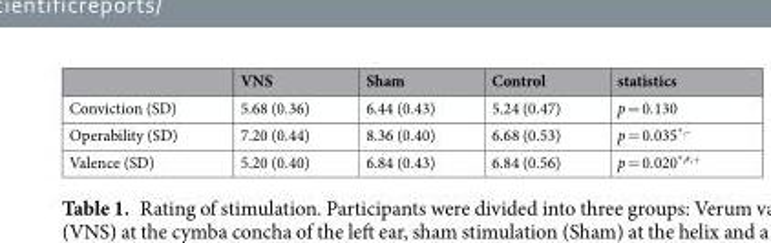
<table><thead><tr><td></td><td>VNS</td><td>Sham</td><td>Control</td><td>statistics</td></tr></thead><tbody><tr><td>Conviction (SD)</td><td>5.68 (0.36)</td><td>6.44 (0.43)</td><td>5.24 (0.47)</td><td>p = 0.130</td></tr><tr><td>Operability (SD)</td><td>7.20 (0.44)</td><td>8.36 (0.40)</td><td>6.68 (0.53)</td><td>p = 0.035<sup>*,~</sup></td></tr><tr><td>Valence (SD)</td><td>5.20 (0.40)</td><td>6.84 (0.43)</td><td>6.84 (0.56)</td><td>p = 0.020<sup>*,#,+</sup></td></tr></tbody></table>